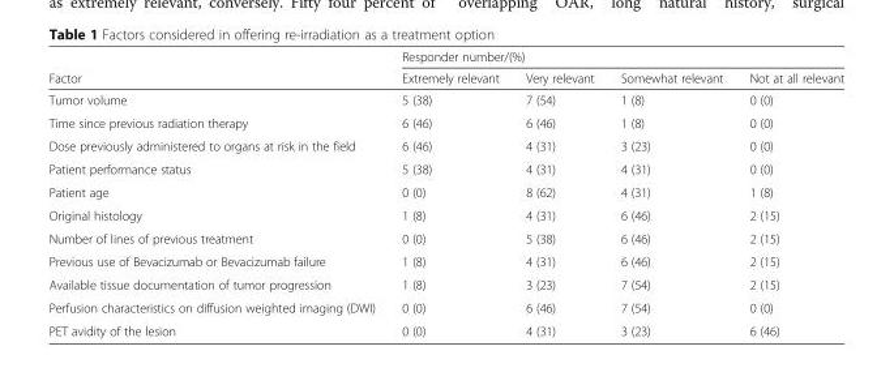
<table><thead><tr><td rowspan="2">Factor</td><td colspan="4">Responder number/(%)</td></tr><tr><td>Extremely relevant</td><td>Very relevant</td><td>Somewhat relevant</td><td>Not at all relevant</td></tr></thead><tbody><tr><td>Tumor volume</td><td>5 (38)</td><td>7 (54)</td><td>1 (8)</td><td>0 (0)</td></tr><tr><td>Time since previous radiation therapy</td><td>6 (46)</td><td>6 (46)</td><td>1 (8)</td><td>0 (0)</td></tr><tr><td>Dose previously administered to organs at risk in the field</td><td>6 (46)</td><td>4 (31)</td><td>3 (23)</td><td>0 (0)</td></tr><tr><td>Patient performance status</td><td>5 (38)</td><td>4 (31)</td><td>4 (31)</td><td>0 (0)</td></tr><tr><td>Patient age</td><td>0 (0)</td><td>8 (62)</td><td>4 (31)</td><td>1 (8)</td></tr><tr><td>Original histology</td><td>1 (8)</td><td>4 (31)</td><td>6 (46)</td><td>2 (15)</td></tr><tr><td>Number of lines of previous treatment</td><td>0 (0)</td><td>5 (38)</td><td>6 (46)</td><td>2 (15)</td></tr><tr><td>Previous use of Bevacizumab or Bevacizumab failure</td><td>1 (8)</td><td>4 (31)</td><td>6 (46)</td><td>2 (15)</td></tr><tr><td>Available tissue documentation of tumor progression</td><td>1 (8)</td><td>3 (23)</td><td>7 (54)</td><td>2 (15)</td></tr><tr><td>Perfusion characteristics on diffusion weighted imaging (DWI)</td><td>0 (0)</td><td>6 (46)</td><td>7 (54)</td><td>0 (0)</td></tr><tr><td>PET avidity of the lesion</td><td>0 (0)</td><td>4 (31)</td><td>3 (23)</td><td>6 (46)</td></tr></tbody></table>